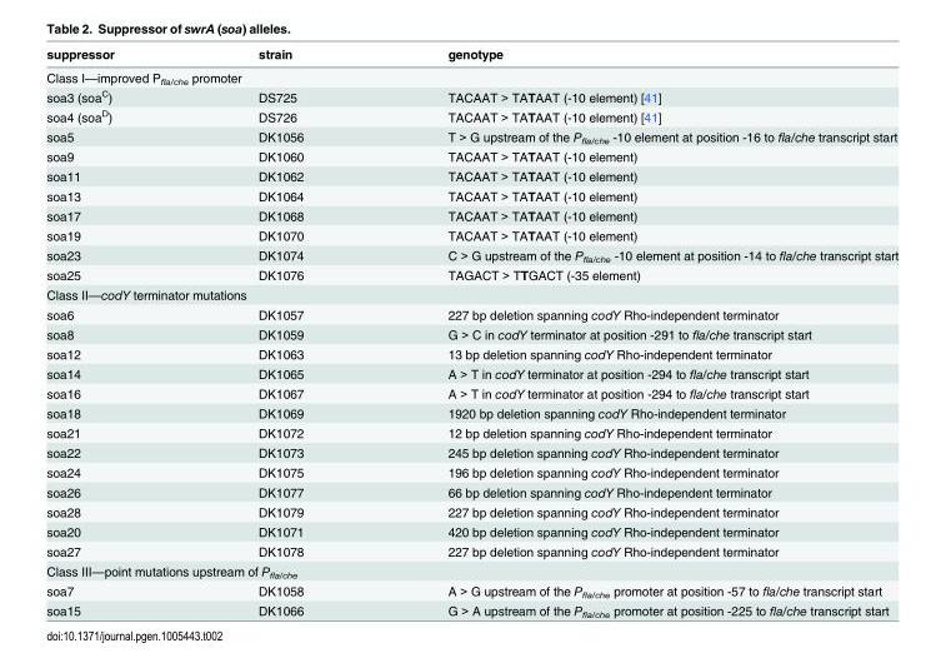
<table><thead><tr><td>suppressor</td><td>strain</td><td>genotype</td></tr></thead><tbody><tr><td colspan="3">Class I—improved P<sub>fla/che</sub> promoter</td></tr><tr><td>soa3 (soa<sup>C</sup>)</td><td>DS725</td><td>TACAAT &gt; TATAAT (-10 element) [41]</td></tr><tr><td>soa4 (soa<sup>D</sup>)</td><td>DS726</td><td>TACAAT &gt; TATAAT (-10 element) [41]</td></tr><tr><td>soa5</td><td>DK1056</td><td>T &gt; G upstream of the P<sub>fla/che</sub> -10 element at position -16 to fla/che transcript start</td></tr><tr><td>soa9</td><td>DK1060</td><td>TACAAT &gt; TATAAT (-10 element)</td></tr><tr><td>soa11</td><td>DK1062</td><td>TACAAT &gt; TATAAT (-10 element)</td></tr><tr><td>soa13</td><td>DK1064</td><td>TACAAT &gt; TATAAT (-10 element)</td></tr><tr><td>soa17</td><td>DK1068</td><td>TACAAT &gt; TATAAT (-10 element)</td></tr><tr><td>soa19</td><td>DK1070</td><td>TACAAT &gt; TATAAT (-10 element)</td></tr><tr><td>soa23</td><td>DK1074</td><td>C &gt; G upstream of the P<sub>fla/che</sub> -10 element at position -14 to fla/che transcript start</td></tr><tr><td>soa25</td><td>DK1076</td><td>TAGACT &gt; TTGACT (-35 element)</td></tr><tr><td colspan="3">Class II—codY terminator mutations</td></tr><tr><td>soa6</td><td>DK1057</td><td>227 bp deletion spanning codY Rho-independent terminator</td></tr><tr><td>soa8</td><td>DK1059</td><td>G &gt; C in codY terminator at position -291 to fla/che transcript start</td></tr><tr><td>soa12</td><td>DK1063</td><td>13 bp deletion spanning codY Rho-independent terminator</td></tr><tr><td>soa14</td><td>DK1065</td><td>A &gt; T in codY terminator at position -294 to fla/che transcript start</td></tr><tr><td>soa16</td><td>DK1067</td><td>A &gt; T in codY terminator at position -294 to fla/che transcript start</td></tr><tr><td>soa18</td><td>DK1069</td><td>1920 bp deletion spanning codY Rho-independent terminator</td></tr><tr><td>soa21</td><td>DK1072</td><td>12 bp deletion spanning codY Rho-independent terminator</td></tr><tr><td>soa22</td><td>DK1073</td><td>245 bp deletion spanning codY Rho-independent terminator</td></tr><tr><td>soa24</td><td>DK1075</td><td>196 bp deletion spanning codY Rho-independent terminator</td></tr><tr><td>soa26</td><td>DK1077</td><td>66 bp deletion spanning codY Rho-independent terminator</td></tr><tr><td>soa28</td><td>DK1079</td><td>227 bp deletion spanning codY Rho-independent terminator</td></tr><tr><td>soa20</td><td>DK1071</td><td>420 bp deletion spanning codY Rho-independent terminator</td></tr><tr><td>soa27</td><td>DK1078</td><td>227 bp deletion spanning codY Rho-independent terminator</td></tr><tr><td colspan="3">Class III—point mutations upstream of P<sub>fla/che</sub></td></tr><tr><td>soa7</td><td>DK1058</td><td>A &gt; G upstream of the P<sub>fla/che</sub> promoter at position -57 to fla/che transcript start</td></tr><tr><td>soa15</td><td>DK1066</td><td>G &gt; A upstream of the P<sub>fla/che</sub> promoter at position -225 to fla/che transcript start</td></tr></tbody></table>